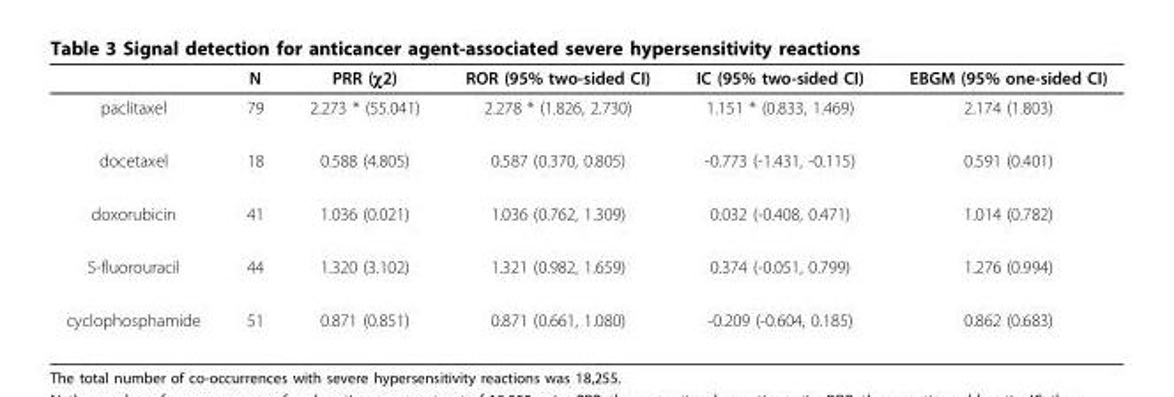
<table><thead><tr><td></td><td>N</td><td>PRR (χ2)</td><td>ROR (95% two-sided CI)</td><td>IC (95% two-sided CI)</td><td>EBGM (95% one-sided CI)</td></tr></thead><tbody><tr><td>paclitaxel</td><td>79</td><td>2.273 * (55.041)</td><td>2.278 * (1.826, 2.730)</td><td>1.151 * (0.833, 1.469)</td><td>2.174 (1.803)</td></tr><tr><td>docetaxel</td><td>18</td><td>0.588 (4.805)</td><td>0.587 (0.370, 0.805)</td><td>-0.773 (-1.431, -0.115)</td><td>0.591 (0.401)</td></tr><tr><td>doxorubicin</td><td>41</td><td>1.036 (0.021)</td><td>1.036 (0.762, 1.309)</td><td>0.032 (-0.408, 0.471)</td><td>1.014 (0.782)</td></tr><tr><td>5-fluorouracil</td><td>44</td><td>1.320 (3.102)</td><td>1.321 (0.982, 1.659)</td><td>0.374 (-0.051, 0.799)</td><td>1.276 (0.994)</td></tr><tr><td>cyclophosphamide</td><td>51</td><td>0.871 (0.851)</td><td>0.871 (0.661, 1.080)</td><td>-0.209 (-0.604, 0.185)</td><td>0.862 (0.683)</td></tr></tbody></table>